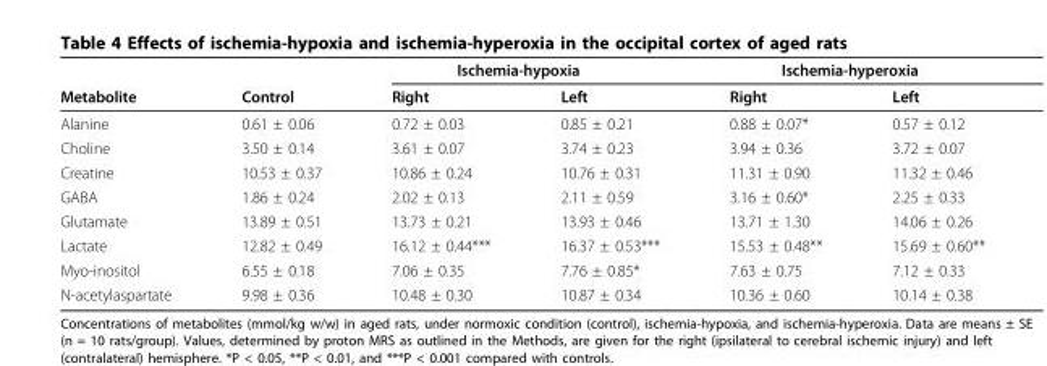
<table><thead><tr><td rowspan="2">Metabolite</td><td rowspan="2">Control</td><td colspan="2">Ischemia-hypoxia</td><td colspan="2">Ischemia-hyperoxia</td></tr><tr><td>Right</td><td>Left</td><td>Right</td><td>Left</td></tr></thead><tbody><tr><td>Alanine</td><td>0.61 ± 0.06</td><td>0.72 ± 0.03</td><td>0.85 ± 0.21</td><td>0.88 ± 0.07*</td><td>0.57 ± 0.12</td></tr><tr><td>Choline</td><td>3.50 ± 0.14</td><td>3.61 ± 0.07</td><td>3.74 ± 0.23</td><td>3.94 ± 0.36</td><td>3.72 ± 0.07</td></tr><tr><td>Creatine</td><td>10.53 ± 0.37</td><td>10.86 ± 0.24</td><td>10.76 ± 0.31</td><td>11.31 ± 0.90</td><td>11.32 ± 0.46</td></tr><tr><td>GABA</td><td>1.86 ± 0.24</td><td>2.02 ± 0.13</td><td>2.11 ± 0.59</td><td>3.16 ± 0.60*</td><td>2.25 ± 0.33</td></tr><tr><td>Glutamate</td><td>13.89 ± 0.51</td><td>13.73 ± 0.21</td><td>13.93 ± 0.46</td><td>13.71 ± 1.30</td><td>14.06 ± 0.26</td></tr><tr><td>Lactate</td><td>12.82 ± 0.49</td><td>16.12 ± 0.44***</td><td>16.37 ± 0.53***</td><td>15.53 ± 0.48**</td><td>15.69 ± 0.60**</td></tr><tr><td>Myo-inositol</td><td>6.55 ± 0.18</td><td>7.06 ± 0.35</td><td>7.76 ± 0.85*</td><td>7.63 ± 0.75</td><td>7.12 ± 0.33</td></tr><tr><td>N-acetylaspartate</td><td>9.98 ± 0.36</td><td>10.48 ± 0.30</td><td>10.87 ± 0.34</td><td>10.36 ± 0.60</td><td>10.14 ± 0.38</td></tr></tbody></table>